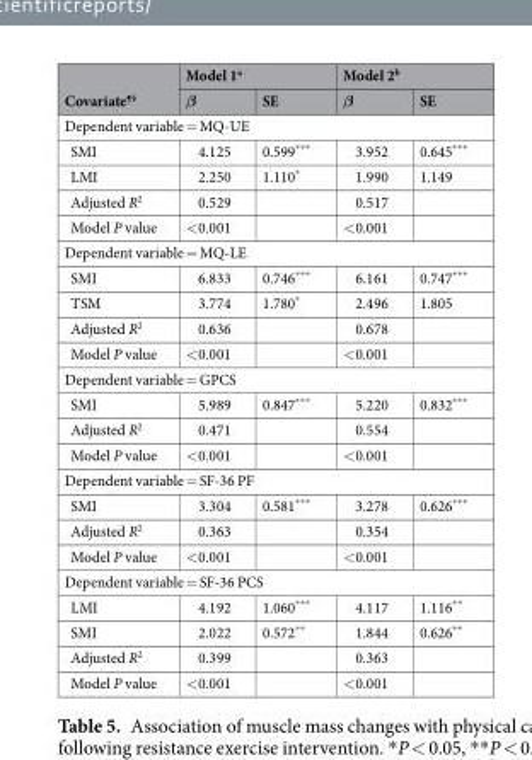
<table><thead><tr><td rowspan="2">Covariate<sup>¶§</sup></td><td colspan="2">Model 1<sup>a</sup></td><td colspan="2">Model 2<sup>b</sup></td></tr><tr><td>β</td><td>SE</td><td>β</td><td>SE</td></tr></thead><tbody><tr><td colspan="5">Dependent variable = MQ-UE</td></tr><tr><td>SMI</td><td>4.125</td><td>0.599***</td><td>3.952</td><td>0.645***</td></tr><tr><td>LMI</td><td>2.250</td><td>1.110*</td><td>1.990</td><td>1.149</td></tr><tr><td>Adjusted R<sup>2</sup></td><td>0.529</td><td></td><td>0.517</td><td></td></tr><tr><td>Model P value</td><td>&lt;0.001</td><td></td><td>&lt;0.001</td><td></td></tr><tr><td colspan="5">Dependent variable = MQ-LE</td></tr><tr><td>SMI</td><td>6.833</td><td>0.746***</td><td>6.161</td><td>0.747***</td></tr><tr><td>TSM</td><td>3.774</td><td>1.780*</td><td>2.496</td><td>1.805</td></tr><tr><td>Adjusted R<sup>2</sup></td><td>0.636</td><td></td><td>0.678</td><td></td></tr><tr><td>Model P value</td><td>&lt;0.001</td><td></td><td>&lt;0.001</td><td></td></tr><tr><td colspan="5">Dependent variable = GPCS</td></tr><tr><td>SMI</td><td>5.989</td><td>0.847***</td><td>5.220</td><td>0.832***</td></tr><tr><td>Adjusted R<sup>2</sup></td><td>0.471</td><td></td><td>0.554</td><td></td></tr><tr><td>Model P value</td><td>&lt;0.001</td><td></td><td>&lt;0.001</td><td></td></tr><tr><td colspan="5">Dependent variable = SF-36 PF</td></tr><tr><td>SMI</td><td>3.304</td><td>0.581***</td><td>3.278</td><td>0.626***</td></tr><tr><td>Adjusted R<sup>2</sup></td><td>0.363</td><td></td><td>0.354</td><td></td></tr><tr><td>Model P value</td><td>&lt;0.001</td><td></td><td>&lt;0.001</td><td></td></tr><tr><td colspan="5">Dependent variable = SF-36 PCS</td></tr><tr><td>LMI</td><td>4.192</td><td>1.060***</td><td>4.117</td><td>1.116**</td></tr><tr><td>SMI</td><td>2.022</td><td>0.572**</td><td>1.844</td><td>0.626**</td></tr><tr><td>Adjusted R<sup>2</sup></td><td>0.399</td><td></td><td>0.363</td><td></td></tr><tr><td>Model P value</td><td>&lt;0.001</td><td></td><td>&lt;0.001</td><td></td></tr></tbody></table>